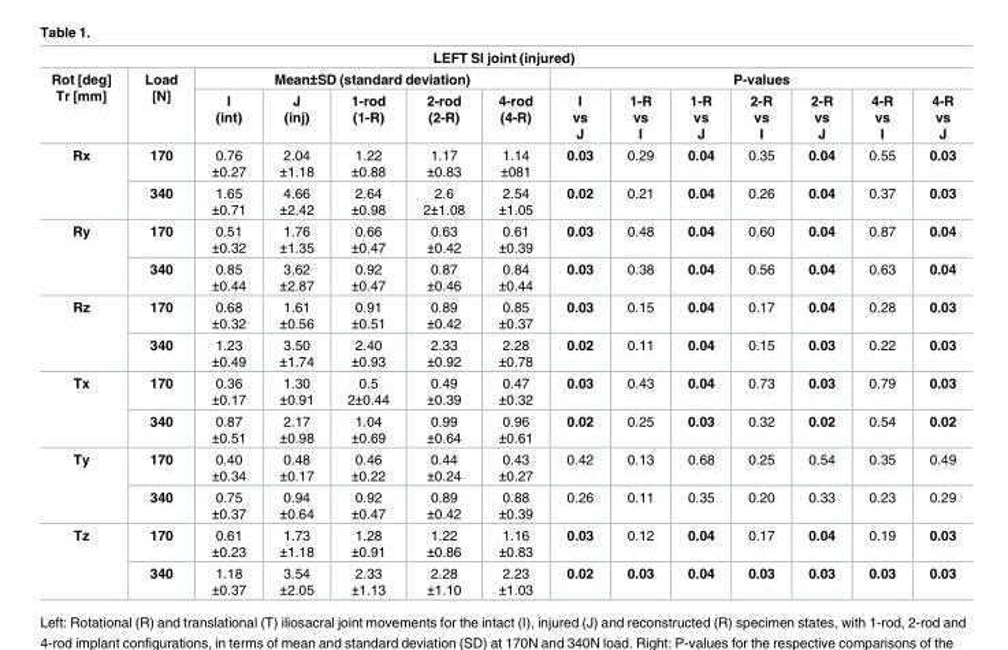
<table><thead><tr><td colspan="14">LEFT SI joint (injured)</td></tr><tr><td rowspan="2">Rot [deg] Tr [mm]</td><td rowspan="2">Load [N]</td><td colspan="5">Mean±SD (standard deviation)</td><td colspan="7">P-values</td></tr><tr><td>I (int)</td><td>J (inj)</td><td>1-rod (1-R)</td><td>2-rod (2-R)</td><td>4-rod (4-R)</td><td>I vs J</td><td>1-R vs I</td><td>1-R vs J</td><td>2-R vs I</td><td>2-R vs J</td><td>4-R vs I</td><td>4-R vs J</td></tr></thead><tbody><tr><td rowspan="2">Rx</td><td>170</td><td>0.76 ±0.27</td><td>2.04 ±1.18</td><td>1.22 ±0.88</td><td>1.17 ±0.83</td><td>1.14 ±081</td><td>0.03</td><td>0.29</td><td>0.04</td><td>0.35</td><td>0.04</td><td>0.55</td><td>0.03</td></tr><tr><td>340</td><td>1.65 ±0.71</td><td>4.66 ±2.42</td><td>2.64 ±0.98</td><td>2.6 2±1.08</td><td>2.54 ±1.05</td><td>0.02</td><td>0.21</td><td>0.04</td><td>0.26</td><td>0.04</td><td>0.37</td><td>0.03</td></tr><tr><td rowspan="2">Ry</td><td>170</td><td>0.51 ±0.32</td><td>1.76 ±1.35</td><td>0.66 ±0.47</td><td>0.63 ±0.42</td><td>0.61 ±0.39</td><td>0.03</td><td>0.48</td><td>0.04</td><td>0.60</td><td>0.04</td><td>0.87</td><td>0.04</td></tr><tr><td>340</td><td>0.85 ±0.44</td><td>3.62 ±2.87</td><td>0.92 ±0.47</td><td>0.87 ±0.46</td><td>0.84 ±0.44</td><td>0.03</td><td>0.38</td><td>0.04</td><td>0.56</td><td>0.04</td><td>0.63</td><td>0.04</td></tr><tr><td rowspan="2">Rz</td><td>170</td><td>0.68 ±0.32</td><td>1.61 ±0.56</td><td>0.91 ±0.51</td><td>0.89 ±0.42</td><td>0.85 ±0.37</td><td>0.03</td><td>0.15</td><td>0.04</td><td>0.17</td><td>0.04</td><td>0.28</td><td>0.03</td></tr><tr><td>340</td><td>1.23 ±0.49</td><td>3.50 ±1.74</td><td>2.40 ±0.93</td><td>2.33 ±0.92</td><td>2.28 ±0.78</td><td>0.02</td><td>0.11</td><td>0.04</td><td>0.15</td><td>0.03</td><td>0.22</td><td>0.03</td></tr><tr><td rowspan="2">Tx</td><td>170</td><td>0.36 ±0.17</td><td>1.30 ±0.91</td><td>0.5 2±0.44</td><td>0.49 ±0.39</td><td>0.47 ±0.32</td><td>0.03</td><td>0.43</td><td>0.04</td><td>0.73</td><td>0.03</td><td>0.79</td><td>0.03</td></tr><tr><td>340</td><td>0.87 ±0.51</td><td>2.17 ±0.98</td><td>1.04 ±0.69</td><td>0.99 ±0.64</td><td>0.96 ±0.61</td><td>0.02</td><td>0.25</td><td>0.03</td><td>0.32</td><td>0.02</td><td>0.54</td><td>0.02</td></tr><tr><td rowspan="2">Ty</td><td>170</td><td>0.40 ±0.34</td><td>0.48 ±0.17</td><td>0.46 ±0.22</td><td>0.44 ±0.24</td><td>0.43 ±0.27</td><td>0.42</td><td>0.13</td><td>0.68</td><td>0.25</td><td>0.54</td><td>0.35</td><td>0.49</td></tr><tr><td>340</td><td>0.75 ±0.37</td><td>0.94 ±0.64</td><td>0.92 ±0.47</td><td>0.89 ±0.42</td><td>0.88 ±0.39</td><td>0.26</td><td>0.11</td><td>0.35</td><td>0.20</td><td>0.33</td><td>0.23</td><td>0.29</td></tr><tr><td rowspan="2">Tz</td><td>170</td><td>0.61 ±0.23</td><td>1.73 ±1.18</td><td>1.28 ±0.91</td><td>1.22 ±0.86</td><td>1.16 ±0.83</td><td>0.03</td><td>0.12</td><td>0.04</td><td>0.17</td><td>0.04</td><td>0.19</td><td>0.03</td></tr><tr><td>340</td><td>1.18 ±0.37</td><td>3.54 ±2.05</td><td>2.33 ±1.13</td><td>2.28 ±1.10</td><td>2.23 ±1.03</td><td>0.02</td><td>0.03</td><td>0.04</td><td>0.03</td><td>0.03</td><td>0.03</td><td>0.03</td></tr></tbody></table>